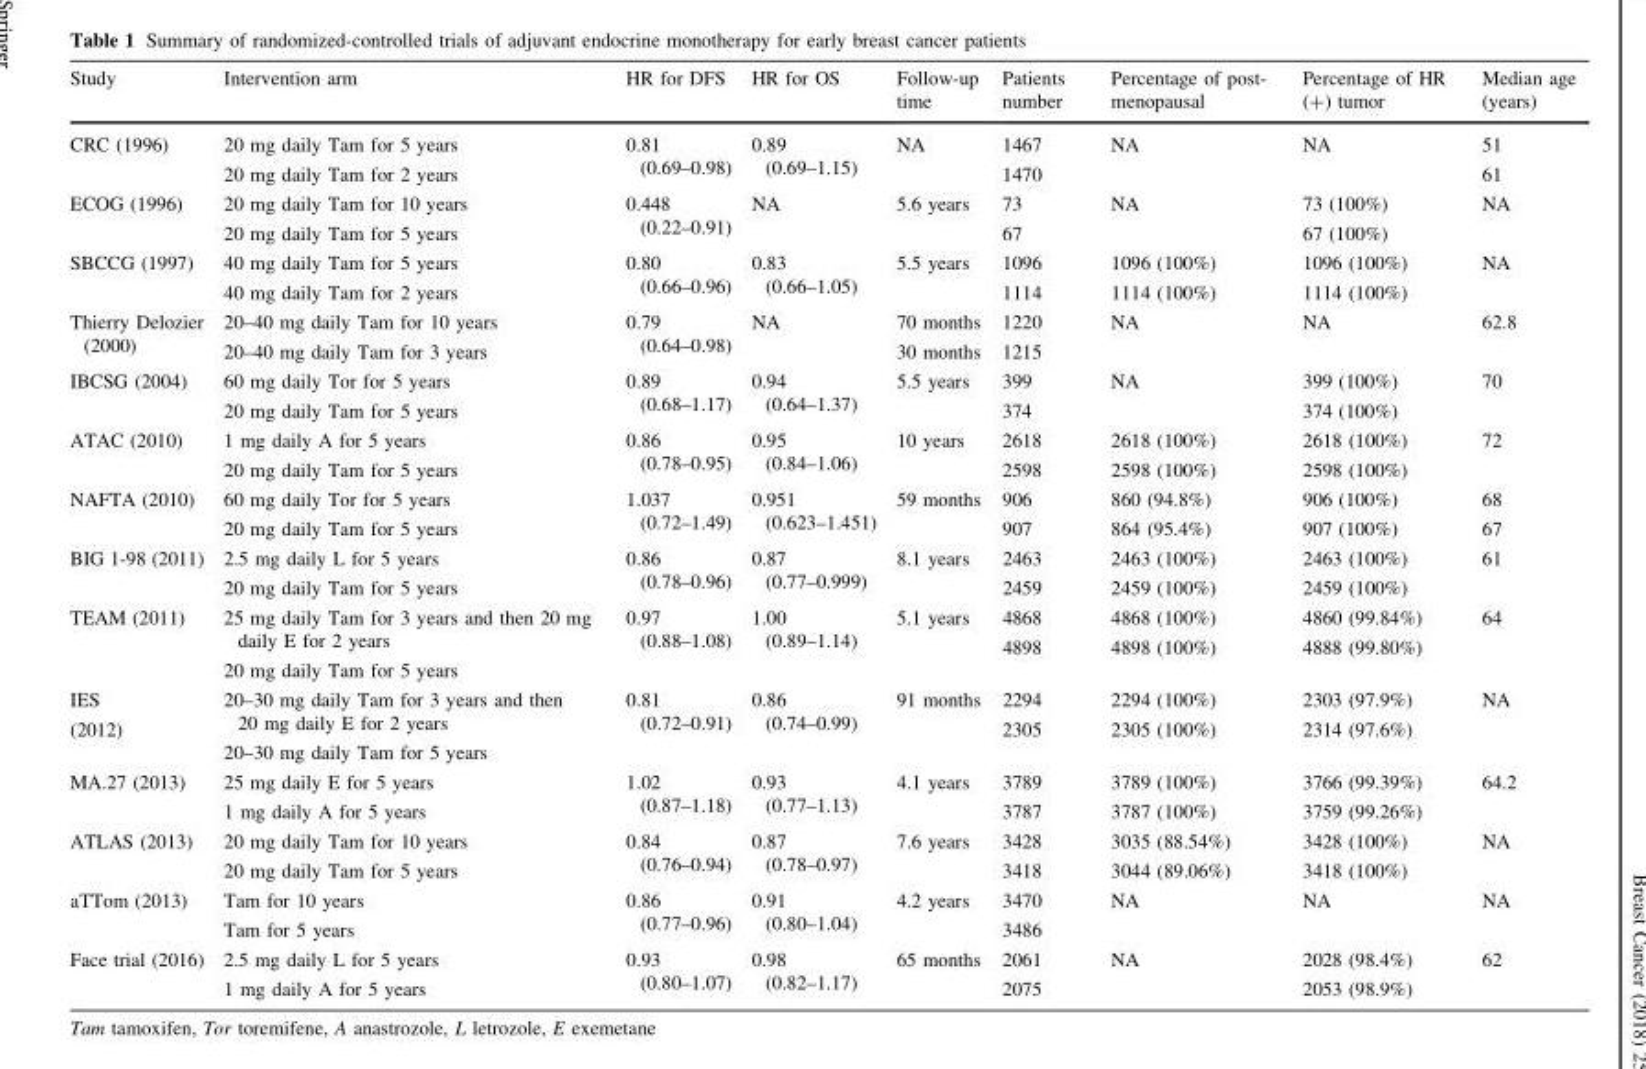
<table><thead><tr><td>Study</td><td>Intervention arm</td><td>HR for DFS</td><td>HR for OS</td><td>Follow-up time</td><td>Patients number</td><td>Percentage of post- menopausal</td><td>Percentage of HR (+) tumor</td><td>Median age (years)</td></tr></thead><tbody><tr><td>CRC (1996)</td><td>20 mg daily Tam for 5 years 20 mg daily Tam for 2 years</td><td>0.81 (0.69–0.98)</td><td>0.89 (0.69–1.15)</td><td>NA</td><td>1467 1470</td><td>NA</td><td>NA</td><td>51 61</td></tr><tr><td>ECOG (1996)</td><td>20 mg daily Tam for 10 years 20 mg daily Tam for 5 years</td><td>0.448 (0.22–0.91)</td><td>NA</td><td>5.6 years</td><td>73 67</td><td>NA</td><td>73 (100%) 67 (100%)</td><td>NA</td></tr><tr><td>SBCCG (1997)</td><td>40 mg daily Tam for 5 years 40 mg daily Tam for 2 years</td><td>0.80 (0.66–0.96)</td><td>0.83 (0.66–1.05)</td><td>5.5 years</td><td>1096 1114</td><td>1096 (100%) 1114 (100%)</td><td>1096 (100%) 1114 (100%)</td><td>NA</td></tr><tr><td>Thierry Delozier (2000)</td><td>20–40 mg daily Tam for 10 years 20–40 mg daily Tam for 3 years</td><td>0.79 (0.64–0.98)</td><td>NA</td><td>70 months 30 months</td><td>1220 1215</td><td>NA</td><td>NA</td><td>62.8</td></tr><tr><td>IBCSG (2004)</td><td>60 mg daily Tor for 5 years 20 mg daily Tam for 5 years</td><td>0.89 (0.68–1.17)</td><td>0.94 (0.64–1.37)</td><td>5.5 years</td><td>399 374</td><td>NA</td><td>399 (100%) 374 (100%)</td><td>70</td></tr><tr><td>ATAC (2010)</td><td>1 mg daily A for 5 years 20 mg daily Tam for 5 years</td><td>0.86 (0.78–0.95)</td><td>0.95 (0.84–1.06)</td><td>10 years</td><td>2618 2598</td><td>2618 (100%) 2598 (100%)</td><td>2618 (100%) 2598 (100%)</td><td>72</td></tr><tr><td>NAFTA (2010)</td><td>60 mg daily Tor for 5 years 20 mg daily Tam for 5 years</td><td>1.037 (0.72–1.49)</td><td>0.951 (0.623–1.451)</td><td>59 months</td><td>906 907</td><td>860 (94.8%) 864 (95.4%)</td><td>906 (100%) 907 (100%)</td><td>68 67</td></tr><tr><td>BIG 1-98 (2011)</td><td>2.5 mg daily L for 5 years 20 mg daily Tam for 5 years</td><td>0.86 (0.78–0.96)</td><td>0.87 (0.77–0.999)</td><td>8.1 years</td><td>2463 2459</td><td>2463 (100%) 2459 (100%)</td><td>2463 (100%) 2459 (100%)</td><td>61</td></tr><tr><td>TEAM (2011)</td><td>25 mg daily Tam for 3 years and then 20 mg daily E for 2 years 20 mg daily Tam for 5 years</td><td>0.97 (0.88–1.08)</td><td>1.00 (0.89–1.14)</td><td>5.1 years</td><td>4868 4898</td><td>4868 (100%) 4898 (100%)</td><td>4860 (99.84%) 4888 (99.80%)</td><td>64</td></tr><tr><td>IES (2012)</td><td>20–30 mg daily Tam for 3 years and then 20 mg daily E for 2 years 20–30 mg daily Tam for 5 years</td><td>0.81 (0.72–0.91)</td><td>0.86 (0.74–0.99)</td><td>91 months</td><td>2294 2305</td><td>2294 (100%) 2305 (100%)</td><td>2303 (97.9%) 2314 (97.6%)</td><td>NA</td></tr><tr><td>MA.27 (2013)</td><td>25 mg daily E for 5 years 1 mg daily A for 5 years</td><td>1.02 (0.87–1.18)</td><td>0.93 (0.77–1.13)</td><td>4.1 years</td><td>3789 3787</td><td>3789 (100%) 3787 (100%)</td><td>3766 (99.39%) 3759 (99.26%)</td><td>64.2</td></tr><tr><td>ATLAS (2013)</td><td>20 mg daily Tam for 10 years 20 mg daily Tam for 5 years</td><td>0.84 (0.76–0.94)</td><td>0.87 (0.78–0.97)</td><td>7.6 years</td><td>3428 3418</td><td>3035 (88.54%) 3044 (89.06%)</td><td>3428 (100%) 3418 (100%)</td><td>NA</td></tr><tr><td>aTTom (2013)</td><td>Tam for 10 years Tam for 5 years</td><td>0.86 (0.77–0.96)</td><td>0.91 (0.80–1.04)</td><td>4.2 years</td><td>3470 3486</td><td>NA</td><td>NA</td><td>NA</td></tr><tr><td>Face trial (2016)</td><td>2.5 mg daily L for 5 years 1 mg daily A for 5 years</td><td>0.93 (0.80–1.07)</td><td>0.98 (0.82–1.17)</td><td>65 months</td><td>2061 2075</td><td>NA</td><td>2028 (98.4%) 2053 (98.9%)</td><td>62</td></tr></tbody></table>